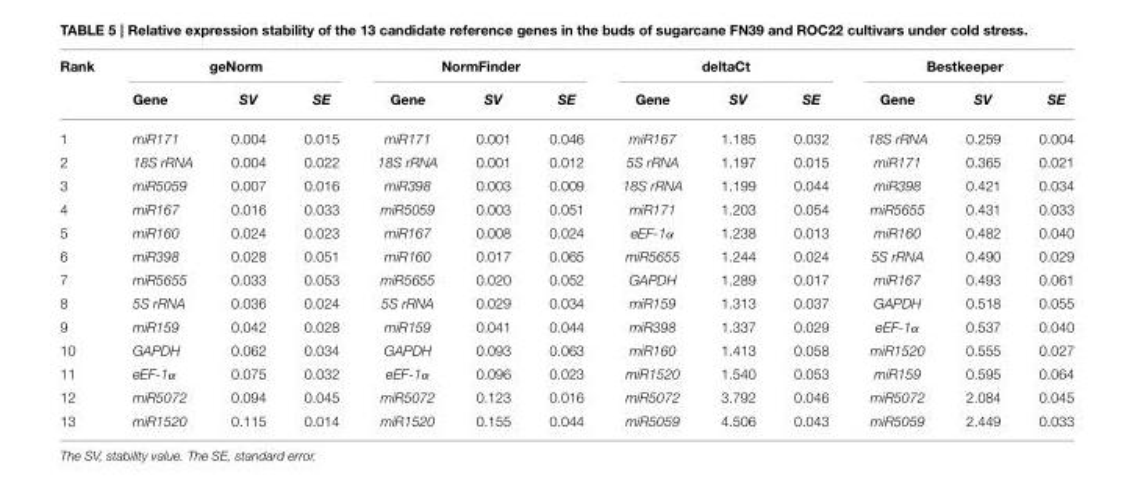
<table><thead><tr><td rowspan="2">Rank</td><td colspan="3">geNorm</td><td colspan="3">NormFinder</td><td colspan="3">deltaCt</td><td colspan="3">Bestkeeper</td></tr><tr><td>Gene</td><td>SV</td><td>SE</td><td>Gene</td><td>SV</td><td>SE</td><td>Gene</td><td>SV</td><td>SE</td><td>Gene</td><td>SV</td><td>SE</td></tr></thead><tbody><tr><td>1</td><td>miR171</td><td>0.004</td><td>0.015</td><td>miR171</td><td>0.001</td><td>0.046</td><td>miR167</td><td>1.185</td><td>0.032</td><td>18S rRNA</td><td>0.259</td><td>0.004</td></tr><tr><td>2</td><td>18S rRNA</td><td>0.004</td><td>0.022</td><td>18S rRNA</td><td>0.001</td><td>0.012</td><td>5S rRNA</td><td>1.197</td><td>0.015</td><td>miR171</td><td>0.365</td><td>0.021</td></tr><tr><td>3</td><td>miR5059</td><td>0.007</td><td>0.016</td><td>miR398</td><td>0.003</td><td>0.009</td><td>18S rRNA</td><td>1.199</td><td>0.044</td><td>miR398</td><td>0.421</td><td>0.034</td></tr><tr><td>4</td><td>miR167</td><td>0.016</td><td>0.033</td><td>miR5059</td><td>0.003</td><td>0.051</td><td>miR171</td><td>1.203</td><td>0.054</td><td>miR5655</td><td>0.431</td><td>0.033</td></tr><tr><td>5</td><td>miR160</td><td>0.024</td><td>0.023</td><td>miR167</td><td>0.008</td><td>0.024</td><td>eEF-1α</td><td>1.238</td><td>0.013</td><td>miR160</td><td>0.482</td><td>0.040</td></tr><tr><td>6</td><td>miR398</td><td>0.028</td><td>0.051</td><td>miR160</td><td>0.017</td><td>0.065</td><td>miR5655</td><td>1.244</td><td>0.024</td><td>5S rRNA</td><td>0.490</td><td>0.029</td></tr><tr><td>7</td><td>miR5655</td><td>0.033</td><td>0.053</td><td>miR5655</td><td>0.020</td><td>0.052</td><td>GAPDH</td><td>1.289</td><td>0.017</td><td>miR167</td><td>0.493</td><td>0.061</td></tr><tr><td>8</td><td>5S rRNA</td><td>0.036</td><td>0.024</td><td>5S rRNA</td><td>0.029</td><td>0.034</td><td>miR159</td><td>1.313</td><td>0.037</td><td>GAPDH</td><td>0.518</td><td>0.055</td></tr><tr><td>9</td><td>miR159</td><td>0.042</td><td>0.028</td><td>miR159</td><td>0.041</td><td>0.044</td><td>miR398</td><td>1.337</td><td>0.029</td><td>eEF-1α</td><td>0.537</td><td>0.040</td></tr><tr><td>10</td><td>GAPDH</td><td>0.062</td><td>0.034</td><td>GAPDH</td><td>0.093</td><td>0.063</td><td>miR160</td><td>1.413</td><td>0.058</td><td>miR1520</td><td>0.555</td><td>0.027</td></tr><tr><td>11</td><td>eEF-1α</td><td>0.075</td><td>0.032</td><td>eEF-1α</td><td>0.096</td><td>0.023</td><td>miR1520</td><td>1.540</td><td>0.053</td><td>miR159</td><td>0.595</td><td>0.064</td></tr><tr><td>12</td><td>miR5072</td><td>0.094</td><td>0.045</td><td>miR5072</td><td>0.123</td><td>0.016</td><td>miR5072</td><td>3.792</td><td>0.046</td><td>miR5072</td><td>2.084</td><td>0.045</td></tr><tr><td>13</td><td>miR1520</td><td>0.115</td><td>0.014</td><td>miR1520</td><td>0.155</td><td>0.044</td><td>miR5059</td><td>4.506</td><td>0.043</td><td>miR5059</td><td>2.449</td><td>0.033</td></tr></tbody></table>